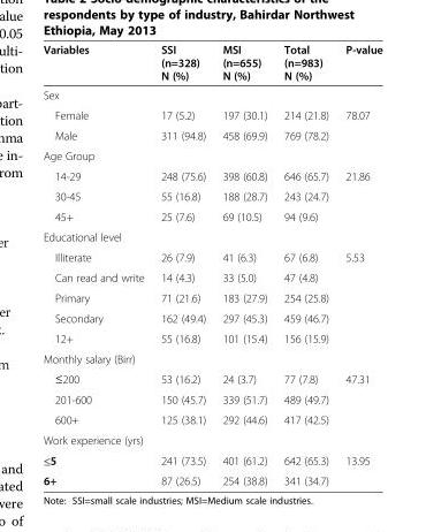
<table><thead><tr><td>Variables</td><td>SSI (n=328) N (%)</td><td>MSI (n=655) N (%)</td><td>Total (n=983) N (%)</td><td>P-value</td></tr></thead><tbody><tr><td colspan="5">Sex</td></tr><tr><td>Female</td><td>17 (5.2)</td><td>197 (30.1)</td><td>214 (21.8)</td><td>78.07</td></tr><tr><td>Male</td><td>311 (94.8)</td><td>458 (69.9)</td><td>769 (78.2)</td><td></td></tr><tr><td colspan="5">Age Group</td></tr><tr><td>14-29</td><td>248 (75.6)</td><td>398 (60.8)</td><td>646 (65.7)</td><td>21.86</td></tr><tr><td>30-45</td><td>55 (16.8)</td><td>188 (28.7)</td><td>243 (24.7)</td><td></td></tr><tr><td>45+</td><td>25 (7.6)</td><td>69 (10.5)</td><td>94 (9.6)</td><td></td></tr><tr><td colspan="5">Educational level</td></tr><tr><td>Illiterate</td><td>26 (7.9)</td><td>41 (6.3)</td><td>67 (6.8)</td><td>5.53</td></tr><tr><td>Can read and write</td><td>14 (4.3)</td><td>33 (5.0)</td><td>47 (4.8)</td><td></td></tr><tr><td>Primary</td><td>71 (21.6)</td><td>183 (27.9)</td><td>254 (25.8)</td><td></td></tr><tr><td>Secondary</td><td>162 (49.4)</td><td>297 (45.3)</td><td>459 (46.7)</td><td></td></tr><tr><td>12+</td><td>55 (16.8)</td><td>101 (15.4)</td><td>156 (15.9)</td><td></td></tr><tr><td colspan="5">Monthly salary (Birr)</td></tr><tr><td>≤200</td><td>53 (16.2)</td><td>24 (3.7)</td><td>77 (7.8)</td><td>47.31</td></tr><tr><td>201-600</td><td>150 (45.7)</td><td>339 (51.7)</td><td>489 (49.7)</td><td></td></tr><tr><td>600+</td><td>125 (38.1)</td><td>292 (44.6)</td><td>417 (42.5)</td><td></td></tr><tr><td colspan="5">Work experience (yrs)</td></tr><tr><td>≤5</td><td>241 (73.5)</td><td>401 (61.2)</td><td>642 (65.3)</td><td>13.95</td></tr><tr><td>6+</td><td>87 (26.5)</td><td>254 (38.8)</td><td>341 (34.7)</td><td></td></tr></tbody></table>